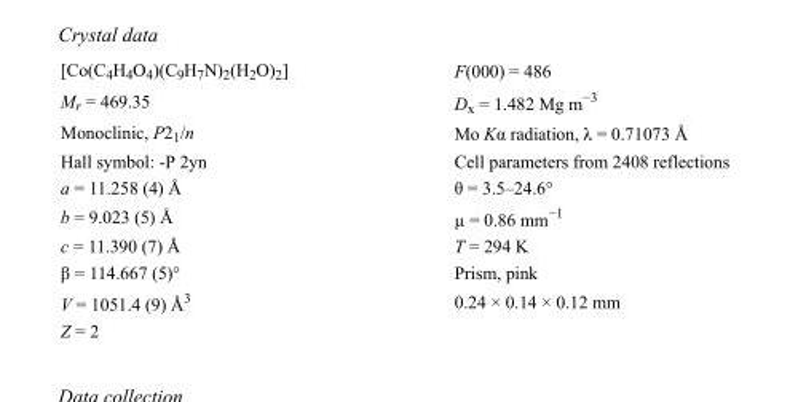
<table><tbody><tr><td>[Co(C<sub>4</sub>H<sub>4</sub>O<sub>4</sub>)(C<sub>9</sub>H<sub>7</sub>N)<sub>2</sub>(H<sub>2</sub>O)<sub>2</sub>]</td><td>F(000) = 486</td></tr><tr><td>M<sub>r</sub> = 469.35</td><td>D<sub>x</sub> = 1.482 Mg m<sup>−3</sup></td></tr><tr><td>Monoclinic, P2<sub>1</sub>/n</td><td>Mo Kα radiation, λ = 0.71073 Å</td></tr><tr><td>Hall symbol: -P 2yn</td><td>Cell parameters from 2408 reflections</td></tr><tr><td>a = 11.258 (4) Å</td><td>θ = 3.5–24.6°</td></tr><tr><td>b = 9.023 (5) Å</td><td>µ = 0.86 mm<sup>−1</sup></td></tr><tr><td>c = 11.390 (7) Å</td><td>T = 294 K</td></tr><tr><td>β = 114.667 (5)°</td><td>Prism, pink</td></tr><tr><td>V = 1051.4 (9) Å<sup>3</sup></td><td>0.24 × 0.14 × 0.12 mm</td></tr><tr><td>Z = 2</td><td></td></tr></tbody></table>